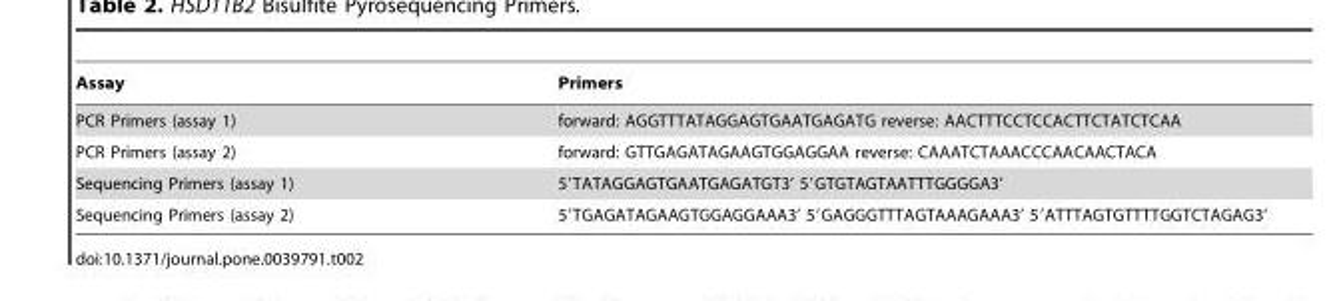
<table><thead><tr><td>Assay</td><td>Primers</td></tr></thead><tbody><tr><td>PCR Primers (assay 1)</td><td>forward: AGGTTTATAGGAGTGAATGAGATG reverse: AACTTTCCTCCACTTCTATCTCAA</td></tr><tr><td>PCR Primers (assay 2)</td><td>forward: GTTGAGATAGAAGTGGAGGAA reverse: CAAATCTAAACCCAACAACTACA</td></tr><tr><td>Sequencing Primers (assay 1)</td><td>5′TATAGGAGTGAATGAGATGT3’ 5′GTGTAGTAATTTGGGGA3’</td></tr><tr><td>Sequencing Primers (assay 2)</td><td>5′TGAGATAGAAGTGGAGGAAA3’ 5′GAGGGTTTAGTAAAGAAA3’ 5′ATTTAGTGTTTTGGTCTAGAG3’</td></tr></tbody></table>